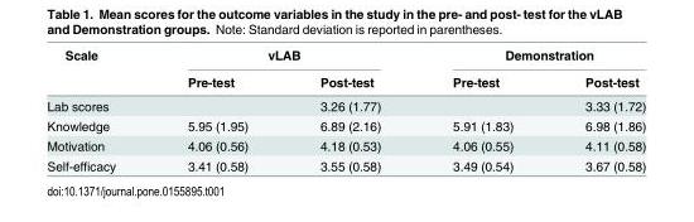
<table><thead><tr><td rowspan="2">Scale</td><td colspan="2">vLAB</td><td colspan="2">Demonstration</td></tr><tr><td>Pre-test</td><td>Post-test</td><td>Pre-test</td><td>Post-test</td></tr></thead><tbody><tr><td>Lab scores</td><td></td><td>3.26 (1.77)</td><td></td><td>3.33 (1.72)</td></tr><tr><td>Knowledge</td><td>5.95 (1.95)</td><td>6.89 (2.16)</td><td>5.91 (1.83)</td><td>6.98 (1.86)</td></tr><tr><td>Motivation</td><td>4.06 (0.56)</td><td>4.18 (0.53)</td><td>4.06 (0.55)</td><td>4.11 (0.58)</td></tr><tr><td>Self-efficacy</td><td>3.41 (0.58)</td><td>3.55 (0.58)</td><td>3.49 (0.54)</td><td>3.67 (0.58)</td></tr></tbody></table>